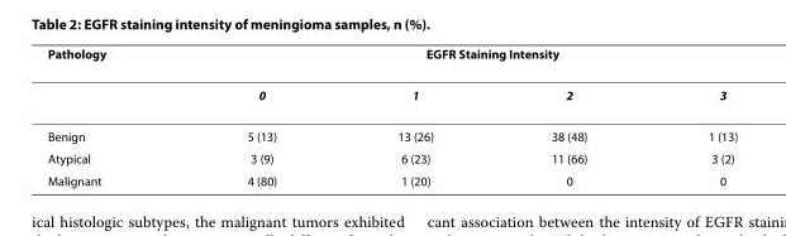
<table><thead><tr><td rowspan="2">Pathology</td><td colspan="4">EGFR Staining Intensity</td></tr><tr><td>0</td><td>1</td><td>2</td><td>3</td></tr></thead><tbody><tr><td>Benign</td><td>5 (13)</td><td>13 (26)</td><td>38 (48)</td><td>1 (13)</td></tr><tr><td>Atypical</td><td>3 (9)</td><td>6 (23)</td><td>11 (66)</td><td>3 (2)</td></tr><tr><td>Malignant</td><td>4 (80)</td><td>1 (20)</td><td>0</td><td>0</td></tr></tbody></table>